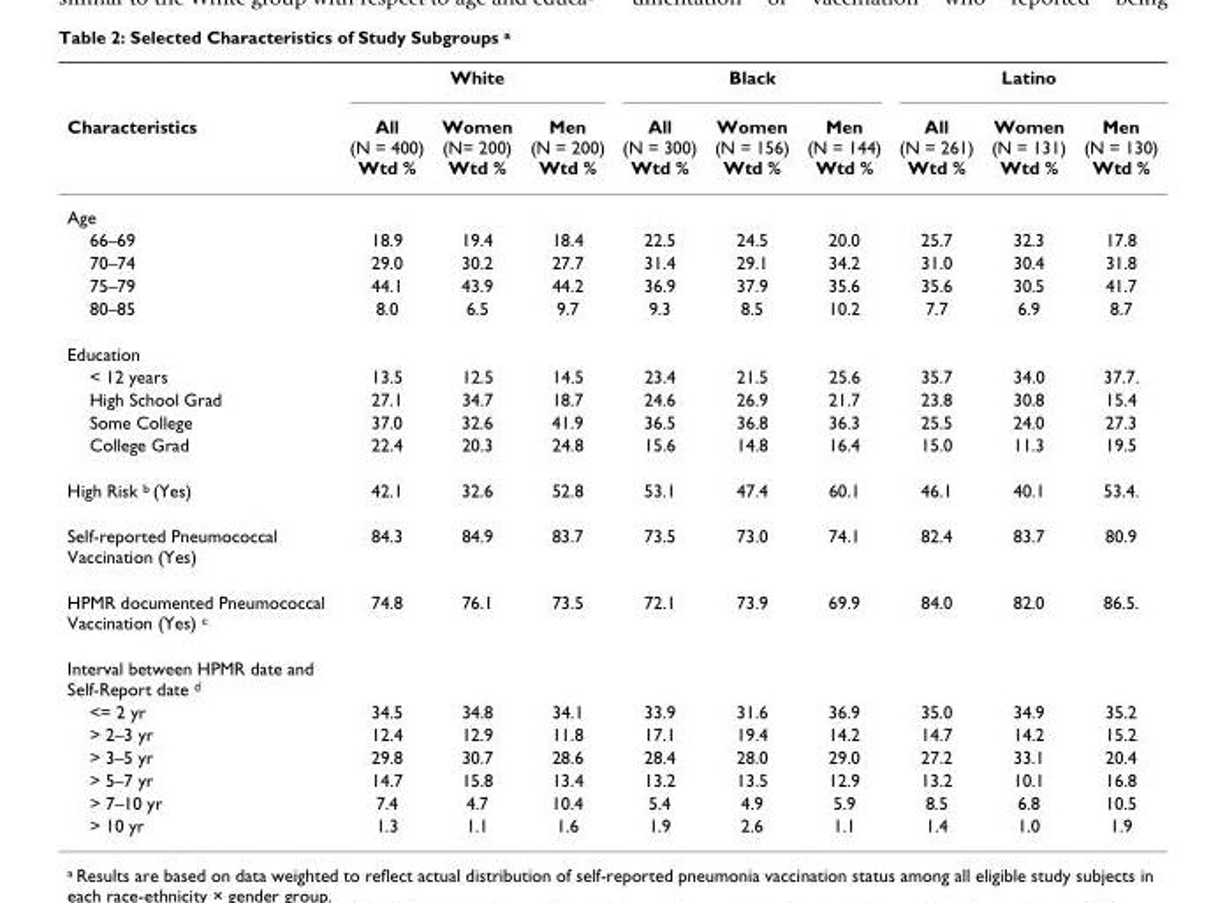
<table><thead><tr><td rowspan="2">Characteristics</td><td colspan="3">White</td><td colspan="3">Black</td><td colspan="3">Latino</td></tr><tr><td>All (N = 400) Wtd %</td><td>Women (N= 200) Wtd %</td><td>Men (N = 200) Wtd %</td><td>All (N = 300) Wtd %</td><td>Women (N = 156) Wtd %</td><td>Men (N = 144) Wtd %</td><td>All (N = 261) Wtd %</td><td>Women (N = 131) Wtd %</td><td>Men (N = 130) Wtd %</td></tr></thead><tbody><tr><td colspan="10">Age</td></tr><tr><td>66–69</td><td>18.9</td><td>19.4</td><td>18.4</td><td>22.5</td><td>24.5</td><td>20.0</td><td>25.7</td><td>32.3</td><td>17.8</td></tr><tr><td>70–74</td><td>29.0</td><td>30.2</td><td>27.7</td><td>31.4</td><td>29.1</td><td>34.2</td><td>31.0</td><td>30.4</td><td>31.8</td></tr><tr><td>75–79</td><td>44.1</td><td>43.9</td><td>44.2</td><td>36.9</td><td>37.9</td><td>35.6</td><td>35.6</td><td>30.5</td><td>41.7</td></tr><tr><td>80–85</td><td>8.0</td><td>6.5</td><td>9.7</td><td>9.3</td><td>8.5</td><td>10.2</td><td>7.7</td><td>6.9</td><td>8.7</td></tr><tr><td colspan="10">Education</td></tr><tr><td>&lt; 12 years</td><td>13.5</td><td>12.5</td><td>14.5</td><td>23.4</td><td>21.5</td><td>25.6</td><td>35.7</td><td>34.0</td><td>37.7.</td></tr><tr><td>High School Grad</td><td>27.1</td><td>34.7</td><td>18.7</td><td>24.6</td><td>26.9</td><td>21.7</td><td>23.8</td><td>30.8</td><td>15.4</td></tr><tr><td>Some College</td><td>37.0</td><td>32.6</td><td>41.9</td><td>36.5</td><td>36.8</td><td>36.3</td><td>25.5</td><td>24.0</td><td>27.3</td></tr><tr><td>College Grad</td><td>22.4</td><td>20.3</td><td>24.8</td><td>15.6</td><td>14.8</td><td>16.4</td><td>15.0</td><td>11.3</td><td>19.5</td></tr><tr><td>High Risk <sup>b</sup> (Yes)</td><td>42.1</td><td>32.6</td><td>52.8</td><td>53.1</td><td>47.4</td><td>60.1</td><td>46.1</td><td>40.1</td><td>53.4.</td></tr><tr><td>Self-reported Pneumococcal Vaccination (Yes)</td><td>84.3</td><td>84.9</td><td>83.7</td><td>73.5</td><td>73.0</td><td>74.1</td><td>82.4</td><td>83.7</td><td>80.9</td></tr><tr><td>HPMR documented Pneumococcal Vaccination (Yes) <sup>c</sup></td><td>74.8</td><td>76.1</td><td>73.5</td><td>72.1</td><td>73.9</td><td>69.9</td><td>84.0</td><td>82.0</td><td>86.5.</td></tr><tr><td colspan="10">Interval between HPMR date and Self-Report date <sup>d</sup></td></tr><tr><td>&lt;= 2 yr</td><td>34.5</td><td>34.8</td><td>34.1</td><td>33.9</td><td>31.6</td><td>36.9</td><td>35.0</td><td>34.9</td><td>35.2</td></tr><tr><td>&gt; 2–3 yr</td><td>12.4</td><td>12.9</td><td>11.8</td><td>17.1</td><td>19.4</td><td>14.2</td><td>14.7</td><td>14.2</td><td>15.2</td></tr><tr><td>&gt; 3–5 yr</td><td>29.8</td><td>30.7</td><td>28.6</td><td>28.4</td><td>28.0</td><td>29.0</td><td>27.2</td><td>33.1</td><td>20.4</td></tr><tr><td>&gt; 5–7 yr</td><td>14.7</td><td>15.8</td><td>13.4</td><td>13.2</td><td>13.5</td><td>12.9</td><td>13.2</td><td>10.1</td><td>16.8</td></tr><tr><td>&gt; 7–10 yr</td><td>7.4</td><td>4.7</td><td>10.4</td><td>5.4</td><td>4.9</td><td>5.9</td><td>8.5</td><td>6.8</td><td>10.5</td></tr><tr><td>&gt; 10 yr</td><td>1.3</td><td>1.1</td><td>1.6</td><td>1.9</td><td>2.6</td><td>1.1</td><td>1.4</td><td>1.0</td><td>1.9</td></tr></tbody></table>